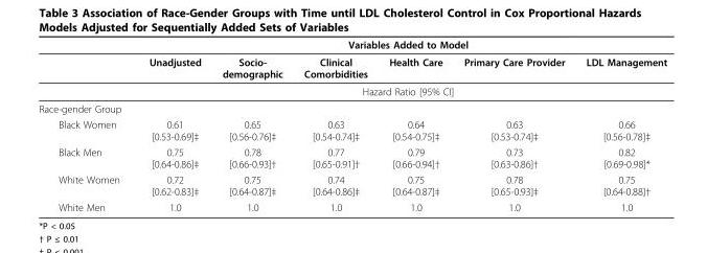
<table><thead><tr><td rowspan="2"></td><td colspan="6">Variables Added to Model</td></tr><tr><td>Unadjusted</td><td>Socio- demographic</td><td>Clinical Comorbidities</td><td>Health Care</td><td>Primary Care Provider</td><td>LDL Management</td></tr></thead><tbody><tr><td></td><td colspan="6">Hazard Ratio [95% CI]</td></tr><tr><td colspan="7">Race-gender Group</td></tr><tr><td>Black Women</td><td>0.61 [0.53-0.69]‡</td><td>0.65 [0.56-0.76]‡</td><td>0.63 [0.54-0.74]‡</td><td>0.64 [0.54-0.75]‡</td><td>0.63 [0.53-0.74]‡</td><td>0.66 [0.56-0.78]‡</td></tr><tr><td>Black Men</td><td>0.75 [0.64-0.86]‡</td><td>0.78 [0.66-0.93]†</td><td>0.77 [0.65-0.91]†</td><td>0.79 [0.66-0.94]†</td><td>0.73 [0.63-0.86]†</td><td>0.82 [0.69-0.98]*</td></tr><tr><td>White Women</td><td>0.72 [0.62-0.83]‡</td><td>0.75 [0.64-0.87]‡</td><td>0.74 [0.64-0.86]‡</td><td>0.75 [0.64-0.87]‡</td><td>0.78 [0.65-0.93]‡</td><td>0.75 [0.64-0.88]†</td></tr><tr><td>White Men</td><td>1.0</td><td>1.0</td><td>1.0</td><td>1.0</td><td>1.0</td><td>1.0</td></tr></tbody></table>